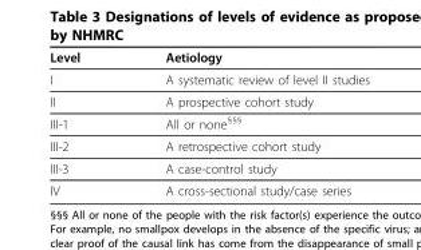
<table><thead><tr><td>Level</td><td>Aetiology</td></tr></thead><tbody><tr><td>I</td><td>A systematic review of level II studies</td></tr><tr><td>II</td><td>A prospective cohort study</td></tr><tr><td>III-1</td><td>All or none<sup>§§§</sup></td></tr><tr><td>III-2</td><td>A retrospective cohort study</td></tr><tr><td>III-3</td><td>A case-control study</td></tr><tr><td>IV</td><td>A cross-sectional study/case series</td></tr></tbody></table>